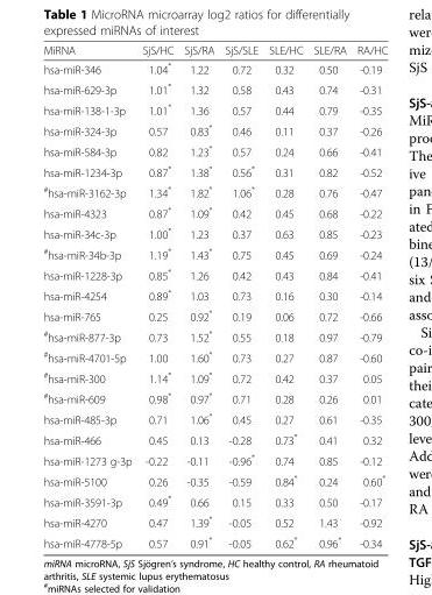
<table><thead><tr><td>MiRNA</td><td>SjS/HC</td><td>SjS/RA</td><td>SjS/SLE</td><td>SLE/HC</td><td>SLE/RA</td><td>RA/HC</td></tr></thead><tbody><tr><td>hsa-miR-346</td><td>1.04*</td><td>1.22</td><td>0.72</td><td>0.32</td><td>0.50</td><td>-0.19</td></tr><tr><td>hsa-miR-629-3p</td><td>1.01*</td><td>1.32</td><td>0.58</td><td>0.43</td><td>0.74</td><td>-0.31</td></tr><tr><td>hsa-miR-138-1-3p</td><td>1.01*</td><td>1.36</td><td>0.57</td><td>0.44</td><td>0.79</td><td>-0.35</td></tr><tr><td>hsa-miR-324-3p</td><td>0.57</td><td>0.83*</td><td>0.46</td><td>0.11</td><td>0.37</td><td>-0.26</td></tr><tr><td>hsa-miR-584-3p</td><td>0.82</td><td>1.23*</td><td>0.57</td><td>0.24</td><td>0.66</td><td>-0.41</td></tr><tr><td>hsa-miR-1234-3p</td><td>0.87*</td><td>1.38*</td><td>0.56*</td><td>0.31</td><td>0.82</td><td>-0.52</td></tr><tr><td><sup>#</sup>hsa-miR-3162-3p</td><td>1.34*</td><td>1.82*</td><td>1.06*</td><td>0.28</td><td>0.76</td><td>-0.47</td></tr><tr><td>hsa-miR-4323</td><td>0.87*</td><td>1.09*</td><td>0.42</td><td>0.45</td><td>0.68</td><td>-0.22</td></tr><tr><td>hsa-miR-34c-3p</td><td>1.00*</td><td>1.23</td><td>0.37</td><td>0.63</td><td>0.85</td><td>-0.23</td></tr><tr><td><sup>#</sup>hsa-miR-34b-3p</td><td>1.19*</td><td>1.43*</td><td>0.75</td><td>0.45</td><td>0.69</td><td>-0.24</td></tr><tr><td>hsa-miR-1228-3p</td><td>0.85*</td><td>1.26</td><td>0.42</td><td>0.43</td><td>0.84</td><td>-0.41</td></tr><tr><td>hsa-miR-4254</td><td>0.89*</td><td>1.03</td><td>0.73</td><td>0.16</td><td>0.30</td><td>-0.14</td></tr><tr><td>hsa-miR-765</td><td>0.25</td><td>0.92*</td><td>0.19</td><td>0.06</td><td>0.72</td><td>-0.66</td></tr><tr><td><sup>#</sup>hsa-miR-877-3p</td><td>0.73</td><td>1.52*</td><td>0.55</td><td>0.18</td><td>0.97</td><td>-0.79</td></tr><tr><td><sup>#</sup>hsa-miR-4701-5p</td><td>1.00</td><td>1.60*</td><td>0.73</td><td>0.27</td><td>0.87</td><td>-0.60</td></tr><tr><td><sup>#</sup>hsa-miR-300</td><td>1.14*</td><td>1.09*</td><td>0.72</td><td>0.42</td><td>0.37</td><td>0.05</td></tr><tr><td><sup>#</sup>hsa-miR-609</td><td>0.98*</td><td>0.97*</td><td>0.71</td><td>0.28</td><td>0.26</td><td>0.01</td></tr><tr><td>hsa-miR-485-3p</td><td>0.71</td><td>1.06*</td><td>0.45</td><td>0.27</td><td>0.61</td><td>-0.35</td></tr><tr><td>hsa-miR-466</td><td>0.45</td><td>0.13</td><td>-0.28</td><td>0.73*</td><td>0.41</td><td>0.32</td></tr><tr><td>hsa-miR-1273 g-3p</td><td>-0.22</td><td>-0.11</td><td>-0.96*</td><td>0.74</td><td>0.85</td><td>-0.12</td></tr><tr><td>hsa-miR-5100</td><td>0.26</td><td>-0.35</td><td>-0.59</td><td>0.84*</td><td>0.24</td><td>0.60*</td></tr><tr><td>hsa-miR-3591-3p</td><td>0.49*</td><td>0.66</td><td>0.15</td><td>0.33</td><td>0.50</td><td>-0.17</td></tr><tr><td>hsa-miR-4270</td><td>0.47</td><td>1.39*</td><td>-0.05</td><td>0.52</td><td>1.43</td><td>-0.92</td></tr><tr><td>hsa-miR-4778-5p</td><td>0.57</td><td>0.91*</td><td>-0.05</td><td>0.62*</td><td>0.96*</td><td>-0.34</td></tr></tbody></table>